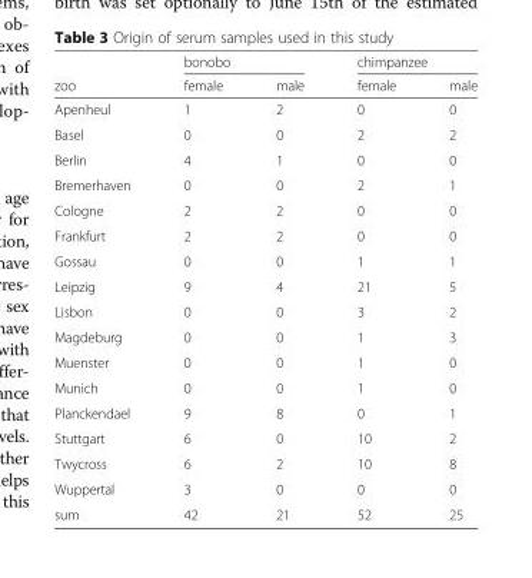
<table><thead><tr><td rowspan="2">zoo</td><td colspan="2">bonobo</td><td colspan="2">chimpanzee</td></tr><tr><td>female</td><td>male</td><td>female</td><td>male</td></tr></thead><tbody><tr><td>Apenheul</td><td>1</td><td>2</td><td>0</td><td>0</td></tr><tr><td>Basel</td><td>0</td><td>0</td><td>2</td><td>2</td></tr><tr><td>Berlin</td><td>4</td><td>1</td><td>0</td><td>0</td></tr><tr><td>Bremerhaven</td><td>0</td><td>0</td><td>2</td><td>1</td></tr><tr><td>Cologne</td><td>2</td><td>2</td><td>0</td><td>0</td></tr><tr><td>Frankfurt</td><td>2</td><td>2</td><td>0</td><td>0</td></tr><tr><td>Gossau</td><td>0</td><td>0</td><td>1</td><td>1</td></tr><tr><td>Leipzig</td><td>9</td><td>4</td><td>21</td><td>5</td></tr><tr><td>Lisbon</td><td>0</td><td>0</td><td>3</td><td>2</td></tr><tr><td>Magdeburg</td><td>0</td><td>0</td><td>1</td><td>3</td></tr><tr><td>Muenster</td><td>0</td><td>0</td><td>1</td><td>0</td></tr><tr><td>Munich</td><td>0</td><td>0</td><td>1</td><td>0</td></tr><tr><td>Planckendael</td><td>9</td><td>8</td><td>0</td><td>1</td></tr><tr><td>Stuttgart</td><td>6</td><td>0</td><td>10</td><td>2</td></tr><tr><td>Twycross</td><td>6</td><td>2</td><td>10</td><td>8</td></tr><tr><td>Wuppertal</td><td>3</td><td>0</td><td>0</td><td>0</td></tr><tr><td>sum</td><td>42</td><td>21</td><td>52</td><td>25</td></tr></tbody></table>